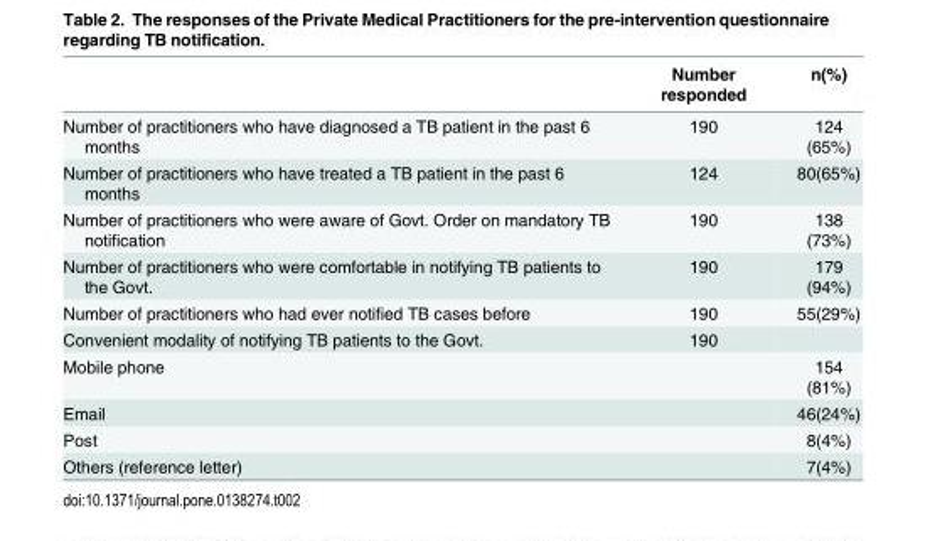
<table><thead><tr><td></td><td>Number responded</td><td>n(%)</td></tr></thead><tbody><tr><td>Number of practitioners who have diagnosed a TB patient in the past 6 months</td><td>190</td><td>124 (65%)</td></tr><tr><td>Number of practitioners who have treated a TB patient in the past 6 months</td><td>124</td><td>80(65%)</td></tr><tr><td>Number of practitioners who were aware of Govt. Order on mandatory TB notification</td><td>190</td><td>138 (73%)</td></tr><tr><td>Number of practitioners who were comfortable in notifying TB patients to the Govt.</td><td>190</td><td>179 (94%)</td></tr><tr><td>Number of practitioners who had ever notified TB cases before</td><td>190</td><td>55(29%)</td></tr><tr><td>Convenient modality of notifying TB patients to the Govt.</td><td>190</td><td></td></tr><tr><td>Mobile phone</td><td></td><td>154 (81%)</td></tr><tr><td>Email</td><td></td><td>46(24%)</td></tr><tr><td>Post</td><td></td><td>8(4%)</td></tr><tr><td>Others (reference letter)</td><td></td><td>7(4%)</td></tr></tbody></table>